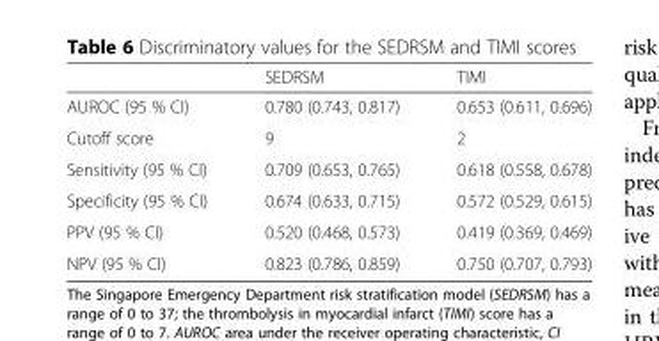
<table><thead><tr><td></td><td>SEDRSM</td><td>TIMI</td></tr></thead><tbody><tr><td>AUROC (95 % CI)</td><td>0.780 (0.743, 0.817)</td><td>0.653 (0.611, 0.696)</td></tr><tr><td>Cutoff score</td><td>9</td><td>2</td></tr><tr><td>Sensitivity (95 % CI)</td><td>0.709 (0.653, 0.765)</td><td>0.618 (0.558, 0.678)</td></tr><tr><td>Specificity (95 % CI)</td><td>0.674 (0.633, 0.715)</td><td>0.572 (0.529, 0.615)</td></tr><tr><td>PPV (95 % CI)</td><td>0.520 (0.468, 0.573)</td><td>0.419 (0.369, 0.469)</td></tr><tr><td>NPV (95 % CI)</td><td>0.823 (0.786, 0.859)</td><td>0.750 (0.707, 0.793)</td></tr></tbody></table>